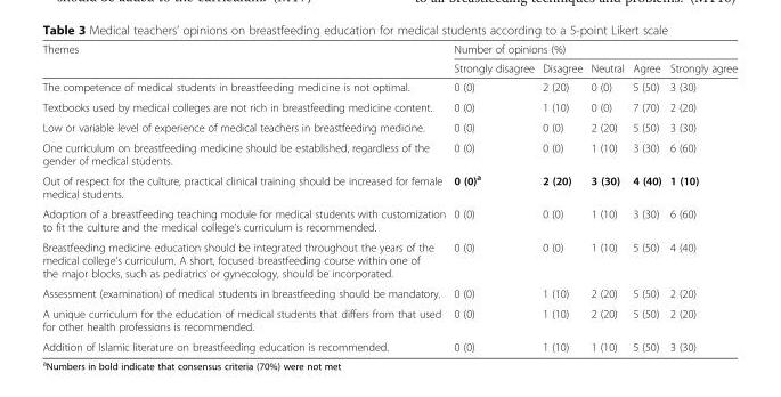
<table><thead><tr><td rowspan="2">Themes</td><td colspan="5">Number of opinions (%)</td></tr><tr><td>Strongly disagree</td><td>Disagree</td><td>Neutral</td><td>Agree</td><td>Strongly agree</td></tr></thead><tbody><tr><td>The competence of medical students in breastfeeding medicine is not optimal.</td><td>0 (0)</td><td>2 (20)</td><td>0 (0)</td><td>5 (50)</td><td>3 (30)</td></tr><tr><td>Textbooks used by medical colleges are not rich in breastfeeding medicine content.</td><td>0 (0)</td><td>1 (10)</td><td>0 (0)</td><td>7 (70)</td><td>2 (20)</td></tr><tr><td>Low or variable level of experience of medical teachers in breastfeeding medicine.</td><td>0 (0)</td><td>0 (0)</td><td>2 (20)</td><td>5 (50)</td><td>3 (30)</td></tr><tr><td>One curriculum on breastfeeding medicine should be established, regardless of the gender of medical students.</td><td>0 (0)</td><td>0 (0)</td><td>1 (10)</td><td>3 (30)</td><td>6 (60)</td></tr><tr><td>Out of respect for the culture, practical clinical training should be increased for female medical students.</td><td>0 (0)<sup>a</sup></td><td>2 (20)</td><td>3 (30)</td><td>4 (40)</td><td>1 (10)</td></tr><tr><td>Adoption of a breastfeeding teaching module for medical students with customization to fit the culture and the medical college’s curriculum is recommended.</td><td>0 (0)</td><td>0 (0)</td><td>1 (10)</td><td>3 (30)</td><td>6 (60)</td></tr><tr><td>Breastfeeding medicine education should be integrated throughout the years of the medical college’s curriculum. A short, focused breastfeeding course within one of the major blocks, such as pediatrics or gynecology, should be incorporated.</td><td>0 (0)</td><td>0 (0)</td><td>1 (10)</td><td>5 (50)</td><td>4 (40)</td></tr><tr><td>Assessment (examination) of medical students in breastfeeding should be mandatory.</td><td>0 (0)</td><td>1 (10)</td><td>2 (20)</td><td>5 (50)</td><td>2 (20)</td></tr><tr><td>A unique curriculum for the education of medical students that differs from that used for other health professions is recommended.</td><td>0 (0)</td><td>1 (10)</td><td>2 (20)</td><td>5 (50)</td><td>2 (20)</td></tr><tr><td>Addition of Islamic literature on breastfeeding education is recommended.</td><td>0 (0)</td><td>1 (10)</td><td>1 (10)</td><td>5 (50)</td><td>3 (30)</td></tr></tbody></table>